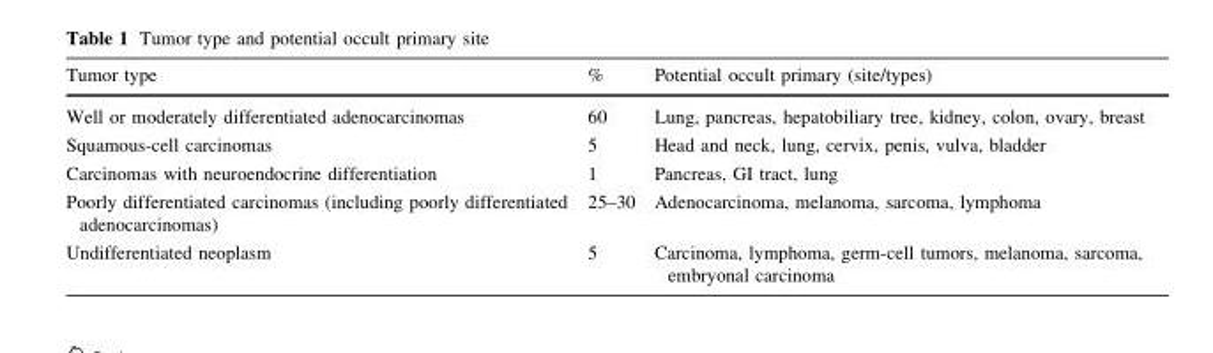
<table><thead><tr><td>Tumor type</td><td>%</td><td>Potential occult primary (site/types)</td></tr></thead><tbody><tr><td>Well or moderately differentiated adenocarcinomas</td><td>60</td><td>Lung, pancreas, hepatobiliary tree, kidney, colon, ovary, breast</td></tr><tr><td>Squamous-cell carcinomas</td><td>5</td><td>Head and neck, lung, cervix, penis, vulva, bladder</td></tr><tr><td>Carcinomas with neuroendocrine differentiation</td><td>1</td><td>Pancreas, GI tract, lung</td></tr><tr><td>Poorly differentiated carcinomas (including poorly differentiated adenocarcinomas)</td><td>25–30</td><td>Adenocarcinoma, melanoma, sarcoma, lymphoma</td></tr><tr><td>Undifferentiated neoplasm</td><td>5</td><td>Carcinoma, lymphoma, germ-cell tumors, melanoma, sarcoma, embryonal carcinoma</td></tr></tbody></table>